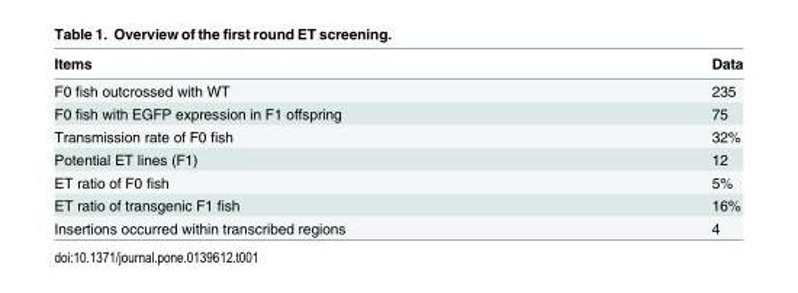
<table><thead><tr><td>Items</td><td>Data</td></tr></thead><tbody><tr><td>F0 fish outcrossed with WT</td><td>235</td></tr><tr><td>F0 fish with EGFP expression in F1 offspring</td><td>75</td></tr><tr><td>Transmission rate of F0 fish</td><td>32%</td></tr><tr><td>Potential ET lines (F1)</td><td>12</td></tr><tr><td>ET ratio of F0 fish</td><td>5%</td></tr><tr><td>ET ratio of transgenic F1 fish</td><td>16%</td></tr><tr><td>Insertions occurred within transcribed regions</td><td>4</td></tr></tbody></table>